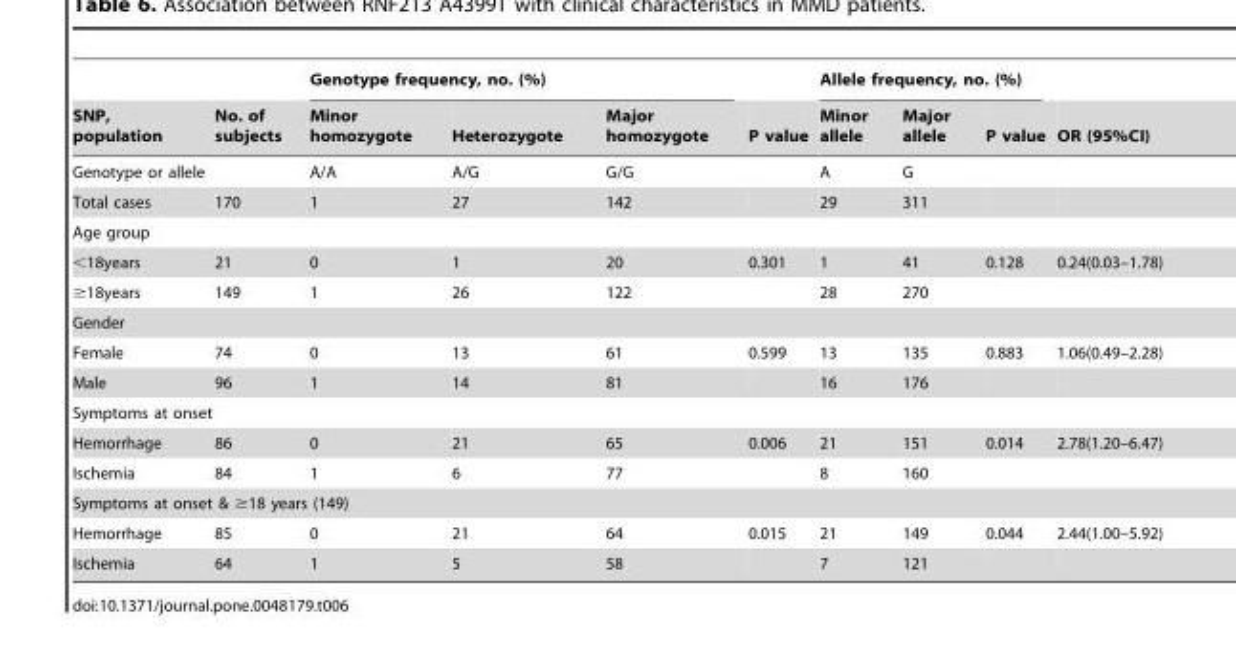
<table><thead><tr><td rowspan="2">SNP, population</td><td rowspan="2">No. of subjects</td><td colspan="3">Genotype frequency, no. (%)</td><td rowspan="2">P value</td><td colspan="3">Allele frequency, no. (%)</td><td rowspan="2">OR (95%CI)</td></tr><tr><td>Minor homozygote</td><td>Heterozygote</td><td>Major homozygote</td><td>Minor allele</td><td>Major allele</td><td>P value</td></tr></thead><tbody><tr><td>Genotype or allele</td><td></td><td>A/A</td><td>A/G</td><td>G/G</td><td></td><td>A</td><td>G</td><td></td><td></td></tr><tr><td>Total cases</td><td>170</td><td>1</td><td>27</td><td>142</td><td></td><td>29</td><td>311</td><td></td><td></td></tr><tr><td colspan="10">Age group</td></tr><tr><td>&lt;18years</td><td>21</td><td>0</td><td>1</td><td>20</td><td>0.301</td><td>1</td><td>41</td><td>0.128</td><td>0.24(0.03–1.78)</td></tr><tr><td>≥18years</td><td>149</td><td>1</td><td>26</td><td>122</td><td></td><td>28</td><td>270</td><td></td><td></td></tr><tr><td colspan="10">Gender</td></tr><tr><td>Female</td><td>74</td><td>0</td><td>13</td><td>61</td><td>0.599</td><td>13</td><td>135</td><td>0.883</td><td>1.06(0.49–2.28)</td></tr><tr><td>Male</td><td>96</td><td>1</td><td>14</td><td>81</td><td></td><td>16</td><td>176</td><td></td><td></td></tr><tr><td colspan="10">Symptoms at onset</td></tr><tr><td>Hemorrhage</td><td>86</td><td>0</td><td>21</td><td>65</td><td>0.006</td><td>21</td><td>151</td><td>0.014</td><td>2.78(1.20–6.47)</td></tr><tr><td>Ischemia</td><td>84</td><td>1</td><td>6</td><td>77</td><td></td><td>8</td><td>160</td><td></td><td></td></tr><tr><td colspan="10">Symptoms at onset &amp; ≥18 years (149)</td></tr><tr><td>Hemorrhage</td><td>85</td><td>0</td><td>21</td><td>64</td><td>0.015</td><td>21</td><td>149</td><td>0.044</td><td>2.44(1.00–5.92)</td></tr><tr><td>Ischemia</td><td>64</td><td>1</td><td>5</td><td>58</td><td></td><td>7</td><td>121</td><td></td><td></td></tr></tbody></table>